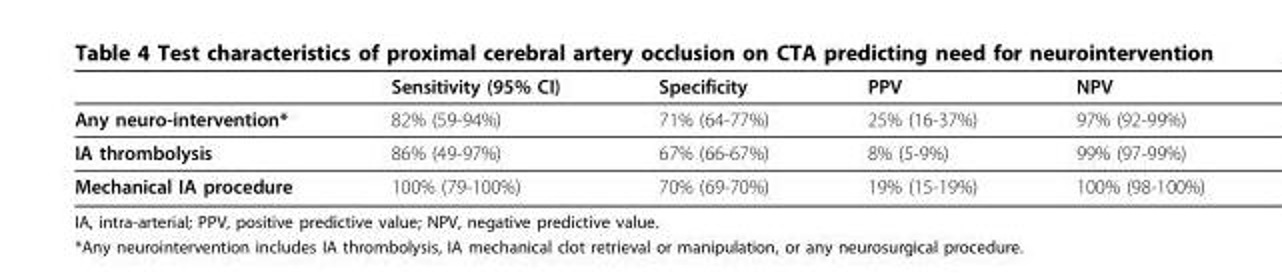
<table><thead><tr><td></td><td>Sensitivity (95% CI)</td><td>Specificity</td><td>PPV</td><td>NPV</td></tr></thead><tbody><tr><td>Any neuro-intervention*</td><td>82% (59-94%)</td><td>71% (64-77%)</td><td>25% (16-37%)</td><td>97% (92-99%)</td></tr><tr><td>IA thrombolysis</td><td>86% (49-97%)</td><td>67% (66-67%)</td><td>8% (5-9%)</td><td>99% (97-99%)</td></tr><tr><td>Mechanical IA procedure</td><td>100% (79-100%)</td><td>70% (69-70%)</td><td>19% (15-19%)</td><td>100% (98-100%)</td></tr></tbody></table>